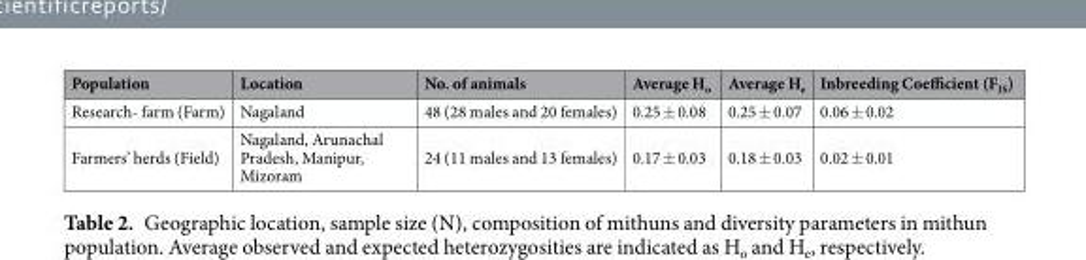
<table><thead><tr><td>Population</td><td>Location</td><td>No. of animals</td><td>Average H<sub>o</sub></td><td>Average H<sub>e</sub></td><td>Inbreeding Coefficient (F<sub>IS</sub>)</td></tr></thead><tbody><tr><td>Research- farm (Farm)</td><td>Nagaland</td><td>48 (28 males and 20 females)</td><td>0.25 ± 0.08</td><td>0.25 ± 0.07</td><td>0.06 ± 0.02</td></tr><tr><td>Farmers’ herds (Field)</td><td>Nagaland, Arunachal Pradesh, Manipur, Mizoram</td><td>24 (11 males and 13 females)</td><td>0.17 ± 0.03</td><td>0.18 ± 0.03</td><td>0.02 ± 0.01</td></tr></tbody></table>